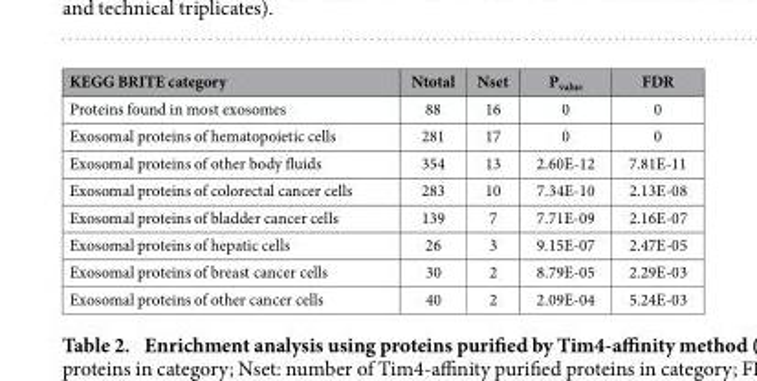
<table><thead><tr><td>KEGG BRITE category</td><td>Ntotal</td><td>Nset</td><td>P<sub>value</sub></td><td>FDR</td></tr></thead><tbody><tr><td>Proteins found in most exosomes</td><td>88</td><td>16</td><td>0</td><td>0</td></tr><tr><td>Exosomal proteins of hematopoietic cells</td><td>281</td><td>17</td><td>0</td><td>0</td></tr><tr><td>Exosomal proteins of other body fluids</td><td>354</td><td>13</td><td>2.60E-12</td><td>7.81E-11</td></tr><tr><td>Exosomal proteins of colorectal cancer cells</td><td>283</td><td>10</td><td>7.34E-10</td><td>2.13E-08</td></tr><tr><td>Exosomal proteins of bladder cancer cells</td><td>139</td><td>7</td><td>7.71E-09</td><td>2.16E-07</td></tr><tr><td>Exosomal proteins of hepatic cells</td><td>26</td><td>3</td><td>9.15E-07</td><td>2.47E-05</td></tr><tr><td>Exosomal proteins of breast cancer cells</td><td>30</td><td>2</td><td>8.79E-05</td><td>2.29E-03</td></tr><tr><td>Exosomal proteins of other cancer cells</td><td>40</td><td>2</td><td>2.09E-04</td><td>5.24E-03</td></tr></tbody></table>